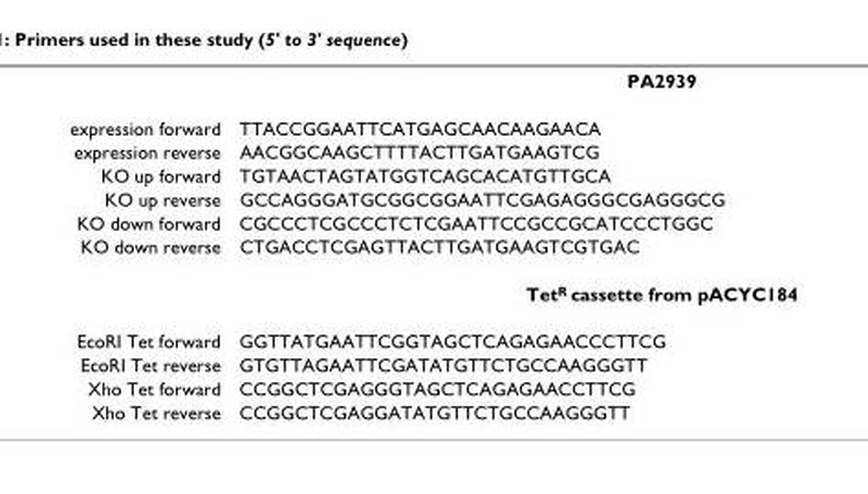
<table><thead><tr><td></td><td>PA2939</td></tr></thead><tbody><tr><td>expression forward</td><td>TTACCGGAATTCATGAGCAACAAGAACA</td></tr><tr><td>expression reverse</td><td>AACGGCAAGCTTTTACTTGATGAAGTCG</td></tr><tr><td>KO up forward</td><td>TGTAACTAGTATGGTCAGCACATGTTGCA</td></tr><tr><td>KO up reverse</td><td>GCCAGGGATGCGGCGGAATTCGAGAGGGCGAGGGCG</td></tr><tr><td>KO down forward</td><td>CGCCCTCGCCCTCTCGAATTCCGCCGCATCCCTGGC</td></tr><tr><td rowspan="2">KO down reverse</td><td>CTGACCTCGAGTTACTTGATGAAGTCGTGAC</td></tr><tr><td>Tet<sup>R</sup> cassette from pACYC184</td></tr><tr><td>EcoRI Tet forward</td><td>GGTTATGAATTCGGTAGCTCAGAGAACCCTTCG</td></tr><tr><td>EcoRI Tet reverse</td><td>GTGTTAGAATTCGATATGTTCTGCCAAGGGTT</td></tr><tr><td>Xho Tet forward</td><td>CCGGCTCGAGGGTAGCTCAGAGAACCTTCG</td></tr><tr><td>Xho Tet reverse</td><td>CCGGCTCGAGGATATGTTCTGCCAAGGGTT</td></tr></tbody></table>